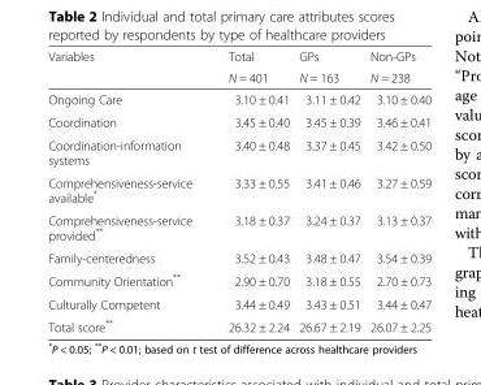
<table><thead><tr><td rowspan="2">Variables</td><td rowspan="2">Total N = 401</td><td rowspan="2">GPs N = 163</td><td rowspan="2">Non-GPs N = 238</td></tr><tr></tr></thead><tbody><tr><td>Ongoing Care</td><td>3.10 ± 0.41</td><td>3.11 ± 0.42</td><td>3.10 ± 0.40</td></tr><tr><td>Coordination</td><td>3.45 ± 0.40</td><td>3.45 ± 0.39</td><td>3.46 ± 0.41</td></tr><tr><td>Coordination-information systems</td><td>3.40 ± 0.48</td><td>3.37 ± 0.45</td><td>3.42 ± 0.50</td></tr><tr><td>Comprehensiveness-service available*</td><td>3.33 ± 0.55</td><td>3.41 ± 0.46</td><td>3.27 ± 0.59</td></tr><tr><td>Comprehensiveness-service provided**</td><td>3.18 ± 0.37</td><td>3.24 ± 0.37</td><td>3.13 ± 0.37</td></tr><tr><td>Family-centeredness</td><td>3.52 ± 0.43</td><td>3.48 ± 0.47</td><td>3.54 ± 0.39</td></tr><tr><td>Community Orientation**</td><td>2.90 ± 0.70</td><td>3.18 ± 0.55</td><td>2.70 ± 0.73</td></tr><tr><td>Culturally Competent</td><td>3.44 ± 0.49</td><td>3.43 ± 0.51</td><td>3.44 ± 0.47</td></tr><tr><td>Total score**</td><td>26.32 ± 2.24</td><td>26.67 ± 2.19</td><td>26.07 ± 2.25</td></tr></tbody></table>